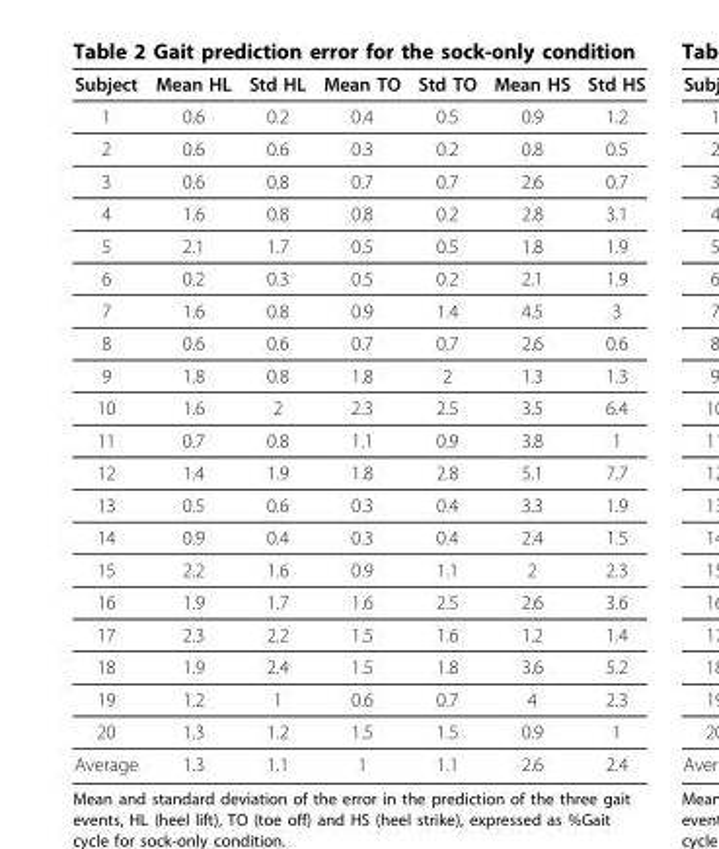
<table><thead><tr><td>Subject</td><td>Mean HL</td><td>Std HL</td><td>Mean TO</td><td>Std TO</td><td>Mean HS</td><td>Std HS</td></tr></thead><tbody><tr><td>1</td><td>0.6</td><td>0.2</td><td>0.4</td><td>0.5</td><td>0.9</td><td>1.2</td></tr><tr><td>2</td><td>0.6</td><td>0.6</td><td>0.3</td><td>0.2</td><td>0.8</td><td>0.5</td></tr><tr><td>3</td><td>0.6</td><td>0.8</td><td>0.7</td><td>0.7</td><td>2.6</td><td>0.7</td></tr><tr><td>4</td><td>1.6</td><td>0.8</td><td>0.8</td><td>0.2</td><td>2.8</td><td>3.1</td></tr><tr><td>5</td><td>2.1</td><td>1.7</td><td>0.5</td><td>0.5</td><td>1.8</td><td>1.9</td></tr><tr><td>6</td><td>0.2</td><td>0.3</td><td>0.5</td><td>0.2</td><td>2.1</td><td>1.9</td></tr><tr><td>7</td><td>1.6</td><td>0.8</td><td>0.9</td><td>1.4</td><td>4.5</td><td>3</td></tr><tr><td>8</td><td>0.6</td><td>0.6</td><td>0.7</td><td>0.7</td><td>2.6</td><td>0.6</td></tr><tr><td>9</td><td>1.8</td><td>0.8</td><td>1.8</td><td>2</td><td>1.3</td><td>1.3</td></tr><tr><td>10</td><td>1.6</td><td>2</td><td>2.3</td><td>2.5</td><td>3.5</td><td>6.4</td></tr><tr><td>11</td><td>0.7</td><td>0.8</td><td>1.1</td><td>0.9</td><td>3.8</td><td>1</td></tr><tr><td>12</td><td>1.4</td><td>1.9</td><td>1.8</td><td>2.8</td><td>5.1</td><td>7.7</td></tr><tr><td>13</td><td>0.5</td><td>0.6</td><td>0.3</td><td>0.4</td><td>3.3</td><td>1.9</td></tr><tr><td>14</td><td>0.9</td><td>0.4</td><td>0.3</td><td>0.4</td><td>2.4</td><td>1.5</td></tr><tr><td>15</td><td>2.2</td><td>1.6</td><td>0.9</td><td>1.1</td><td>2</td><td>2.3</td></tr><tr><td>16</td><td>1.9</td><td>1.7</td><td>1.6</td><td>2.5</td><td>2.6</td><td>3.6</td></tr><tr><td>17</td><td>2.3</td><td>2.2</td><td>1.5</td><td>1.6</td><td>1.2</td><td>1.4</td></tr><tr><td>18</td><td>1.9</td><td>2.4</td><td>1.5</td><td>1.8</td><td>3.6</td><td>5.2</td></tr><tr><td>19</td><td>1.2</td><td>1</td><td>0.6</td><td>0.7</td><td>4</td><td>2.3</td></tr><tr><td>20</td><td>1.3</td><td>1.2</td><td>1.5</td><td>1.5</td><td>0.9</td><td>1</td></tr><tr><td>Average</td><td>1.3</td><td>1.1</td><td>1</td><td>1.1</td><td>2.6</td><td>2.4</td></tr></tbody></table>